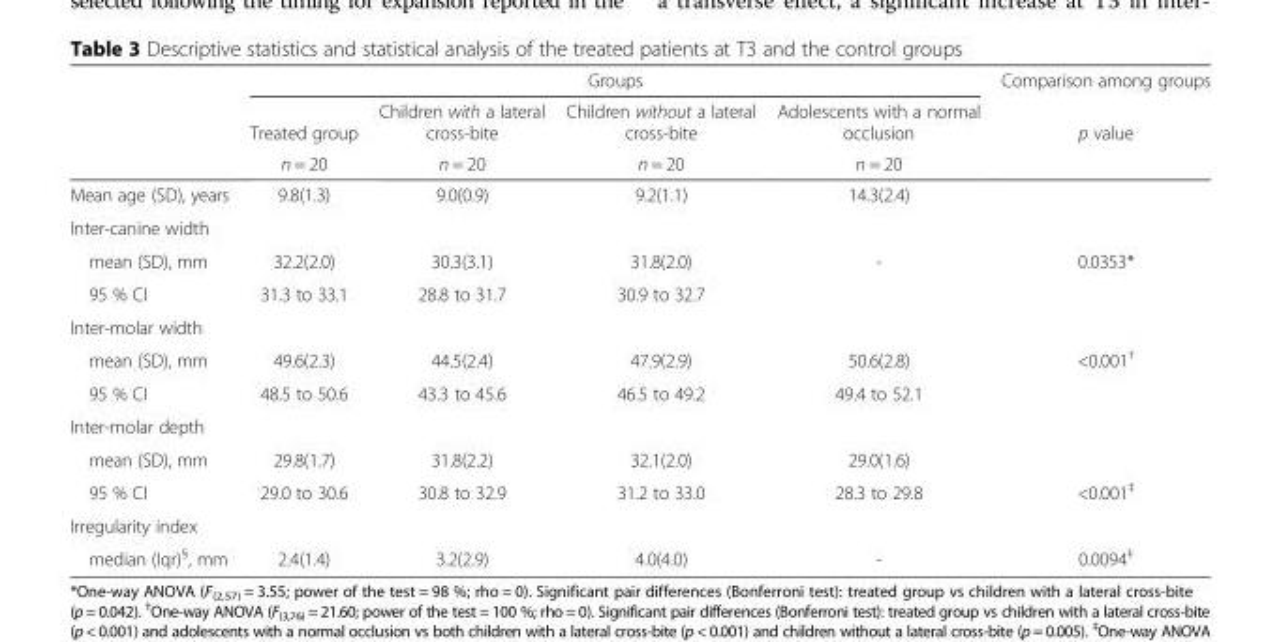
<table><thead><tr><td rowspan="3"></td><td colspan="4">Groups</td><td rowspan="3">Comparison among groups p value</td></tr><tr><td rowspan="2">Treated group n = 20</td><td rowspan="2">Children with a lateral cross-bite n = 20</td><td rowspan="2">Children without a lateral cross-bite n = 20</td><td rowspan="2">Adolescents with a normal occlusion n = 20</td></tr><tr></tr></thead><tbody><tr><td>Mean age (SD), years</td><td>9.8(1.3)</td><td>9.0(0.9)</td><td>9.2(1.1)</td><td>14.3(2.4)</td><td></td></tr><tr><td colspan="6">Inter-canine width</td></tr><tr><td>mean (SD), mm</td><td>32.2(2.0)</td><td>30.3(3.1)</td><td>31.8(2.0)</td><td>-</td><td>0.0353*</td></tr><tr><td>95 % CI</td><td>31.3 to 33.1</td><td>28.8 to 31.7</td><td>30.9 to 32.7</td><td></td><td></td></tr><tr><td colspan="6">Inter-molar width</td></tr><tr><td>mean (SD), mm</td><td>49.6(2.3)</td><td>44.5(2.4)</td><td>47.9(2.9)</td><td>50.6(2.8)</td><td>&lt;0.001<sup>†</sup></td></tr><tr><td>95 % CI</td><td>48.5 to 50.6</td><td>43.3 to 45.6</td><td>46.5 to 49.2</td><td>49.4 to 52.1</td><td></td></tr><tr><td colspan="6">Inter-molar depth</td></tr><tr><td>mean (SD), mm</td><td>29.8(1.7)</td><td>31.8(2.2)</td><td>32.1(2.0)</td><td>29.0(1.6)</td><td></td></tr><tr><td>95 % CI</td><td>29.0 to 30.6</td><td>30.8 to 32.9</td><td>31.2 to 33.0</td><td>28.3 to 29.8</td><td>&lt;0.001<sup>‡</sup></td></tr><tr><td colspan="6">Irregularity index</td></tr><tr><td>median (Iqr)<sup>§</sup>, mm</td><td>2.4(1.4)</td><td>3.2(2.9)</td><td>4.0(4.0)</td><td>-</td><td>0.0094<sup>‡</sup></td></tr></tbody></table>